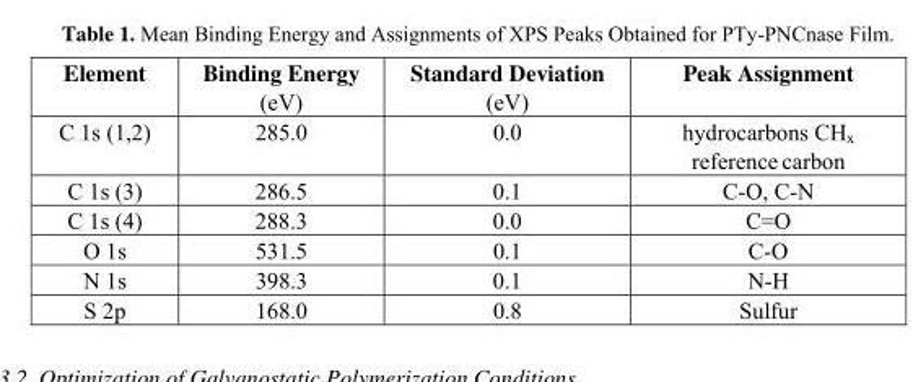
<table><thead><tr><td>Element</td><td>Binding Energy (eV)</td><td>Standard Deviation (eV)</td><td>Peak Assignment</td></tr></thead><tbody><tr><td>C 1s (1,2)</td><td>285.0</td><td>0.0</td><td>hydrocarbons CH<sub>x</sub> reference carbon</td></tr><tr><td>C 1s (3)</td><td>286.5</td><td>0.1</td><td>C-O, C-N</td></tr><tr><td>C 1s (4)</td><td>288.3</td><td>0.0</td><td>C=O</td></tr><tr><td>O 1s</td><td>531.5</td><td>0.1</td><td>C-O</td></tr><tr><td>N 1s</td><td>398.3</td><td>0.1</td><td>N-H</td></tr><tr><td>S 2p</td><td>168.0</td><td>0.8</td><td>Sulfur</td></tr></tbody></table>